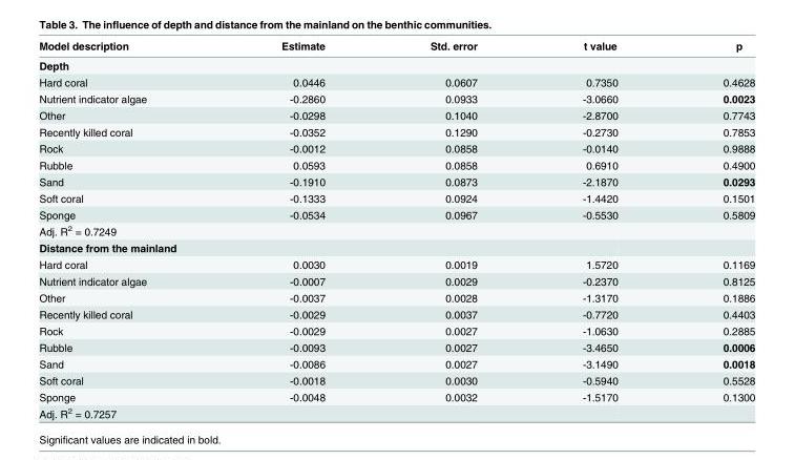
<table><thead><tr><td>Model description</td><td>Estimate</td><td>Std. error</td><td>t value</td><td>p</td></tr></thead><tbody><tr><td colspan="5">Depth</td></tr><tr><td>Hard coral</td><td>0.0446</td><td>0.0607</td><td>0.7350</td><td>0.4628</td></tr><tr><td>Nutrient indicator algae</td><td>-0.2860</td><td>0.0933</td><td>-3.0660</td><td>0.0023</td></tr><tr><td>Other</td><td>-0.0298</td><td>0.1040</td><td>-2.8700</td><td>0.7743</td></tr><tr><td>Recently killed coral</td><td>-0.0352</td><td>0.1290</td><td>-0.2730</td><td>0.7853</td></tr><tr><td>Rock</td><td>-0.0012</td><td>0.0858</td><td>-0.0140</td><td>0.9888</td></tr><tr><td>Rubble</td><td>0.0593</td><td>0.0858</td><td>0.6910</td><td>0.4900</td></tr><tr><td>Sand</td><td>-0.1910</td><td>0.0873</td><td>-2.1870</td><td>0.0293</td></tr><tr><td>Soft coral</td><td>-0.1333</td><td>0.0924</td><td>-1.4420</td><td>0.1501</td></tr><tr><td>Sponge</td><td>-0.0534</td><td>0.0967</td><td>-0.5530</td><td>0.5809</td></tr><tr><td colspan="5">Adj. R<sup>2</sup> = 0.7249</td></tr><tr><td colspan="5">Distance from the mainland</td></tr><tr><td>Hard coral</td><td>0.0030</td><td>0.0019</td><td>1.5720</td><td>0.1169</td></tr><tr><td>Nutrient indicator algae</td><td>-0.0007</td><td>0.0029</td><td>-0.2370</td><td>0.8125</td></tr><tr><td>Other</td><td>-0.0037</td><td>0.0028</td><td>-1.3170</td><td>0.1886</td></tr><tr><td>Recently killed coral</td><td>-0.0029</td><td>0.0037</td><td>-0.7720</td><td>0.4403</td></tr><tr><td>Rock</td><td>-0.0029</td><td>0.0027</td><td>-1.0630</td><td>0.2885</td></tr><tr><td>Rubble</td><td>-0.0093</td><td>0.0027</td><td>-3.4650</td><td>0.0006</td></tr><tr><td>Sand</td><td>-0.0086</td><td>0.0027</td><td>-3.1490</td><td>0.0018</td></tr><tr><td>Soft coral</td><td>-0.0018</td><td>0.0030</td><td>-0.5940</td><td>0.5528</td></tr><tr><td>Sponge</td><td>-0.0048</td><td>0.0032</td><td>-1.5170</td><td>0.1300</td></tr><tr><td>Adj. R<sup>2</sup> = 0.7257</td><td></td><td></td><td></td><td></td></tr></tbody></table>